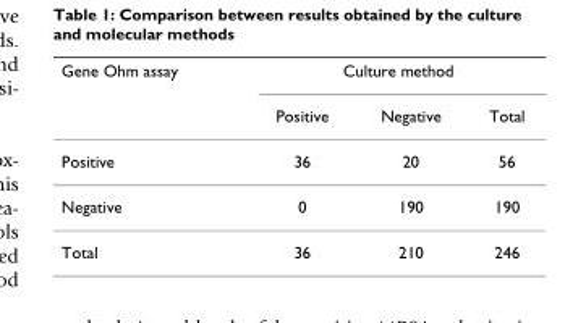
<table><thead><tr><td rowspan="2">Gene Ohm assay</td><td colspan="3">Culture method</td></tr><tr><td>Positive</td><td>Negative</td><td>Total</td></tr></thead><tbody><tr><td>Positive</td><td>36</td><td>20</td><td>56</td></tr><tr><td>Negative</td><td>0</td><td>190</td><td>190</td></tr><tr><td>Total</td><td>36</td><td>210</td><td>246</td></tr></tbody></table>